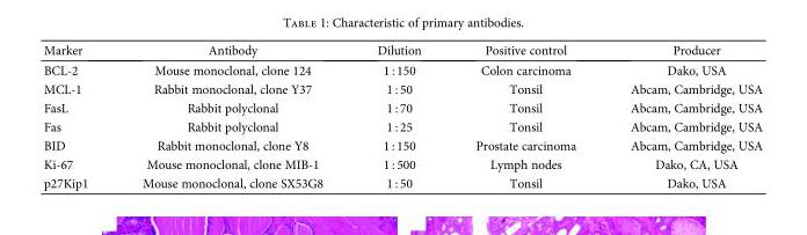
<table><thead><tr><td>Marker</td><td>Antibody</td><td>Dilution</td><td>Positive control</td><td>Producer</td></tr></thead><tbody><tr><td>BCL-2</td><td>Mouse monoclonal, clone 124</td><td>1 : 150</td><td>Colon carcinoma</td><td>Dako, USA</td></tr><tr><td>MCL-1</td><td>Rabbit monoclonal, clone Y37</td><td>1 : 50</td><td>Tonsil</td><td>Abcam, Cambridge, USA</td></tr><tr><td>FasL</td><td>Rabbit polyclonal</td><td>1 : 70</td><td>Tonsil</td><td>Abcam, Cambridge, USA</td></tr><tr><td>Fas</td><td>Rabbit polyclonal</td><td>1 : 25</td><td>Tonsil</td><td>Abcam, Cambridge, USA</td></tr><tr><td>BID</td><td>Rabbit monoclonal, clone Y8</td><td>1 : 150</td><td>Prostate carcinoma</td><td>Abcam, Cambridge, USA</td></tr><tr><td>Ki-67</td><td>Mouse monoclonal, clone MIB-1</td><td>1 : 500</td><td>Lymph nodes</td><td>Dako, CA, USA</td></tr><tr><td>p27Kip1</td><td>Mouse monoclonal, clone SX53G8</td><td>1 : 50</td><td>Tonsil</td><td>Dako, USA</td></tr></tbody></table>